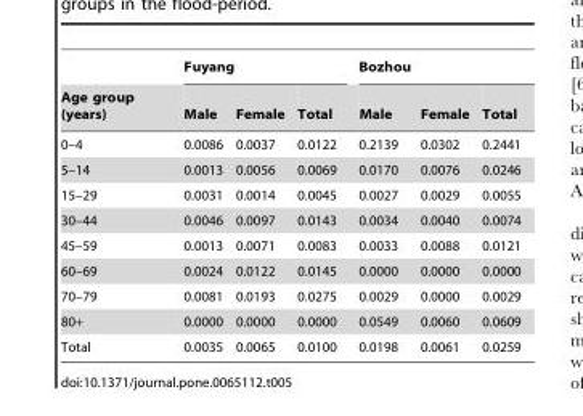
<table><thead><tr><td rowspan="2">Age group (years)</td><td colspan="3">Fuyang</td><td colspan="3">Bozhou</td></tr><tr><td>Male</td><td>Female</td><td>Total</td><td>Male</td><td>Female</td><td>Total</td></tr></thead><tbody><tr><td>0–4</td><td>0.0086</td><td>0.0037</td><td>0.0122</td><td>0.2139</td><td>0.0302</td><td>0.2441</td></tr><tr><td>5–14</td><td>0.0013</td><td>0.0056</td><td>0.0069</td><td>0.0170</td><td>0.0076</td><td>0.0246</td></tr><tr><td>15–29</td><td>0.0031</td><td>0.0014</td><td>0.0045</td><td>0.0027</td><td>0.0029</td><td>0.0055</td></tr><tr><td>30–44</td><td>0.0046</td><td>0.0097</td><td>0.0143</td><td>0.0034</td><td>0.0040</td><td>0.0074</td></tr><tr><td>45–59</td><td>0.0013</td><td>0.0071</td><td>0.0083</td><td>0.0033</td><td>0.0088</td><td>0.0121</td></tr><tr><td>60–69</td><td>0.0024</td><td>0.0122</td><td>0.0145</td><td>0.0000</td><td>0.0000</td><td>0.0000</td></tr><tr><td>70–79</td><td>0.0081</td><td>0.0193</td><td>0.0275</td><td>0.0029</td><td>0.0000</td><td>0.0029</td></tr><tr><td>80+</td><td>0.0000</td><td>0.0000</td><td>0.0000</td><td>0.0549</td><td>0.0060</td><td>0.0609</td></tr><tr><td>Total</td><td>0.0035</td><td>0.0065</td><td>0.0100</td><td>0.0198</td><td>0.0061</td><td>0.0259</td></tr></tbody></table>